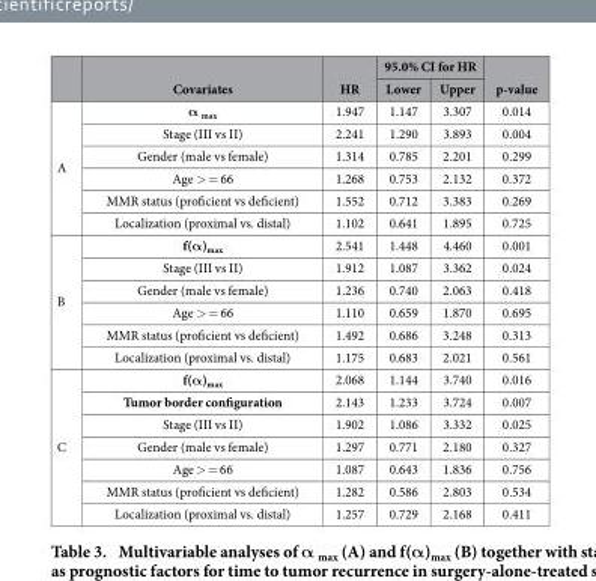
<table><thead><tr><td rowspan="2"></td><td rowspan="2">Covariates</td><td rowspan="2">HR</td><td colspan="2">95.0% CI for HR</td><td rowspan="2">p-value</td></tr><tr><td>Lower</td><td>Upper</td></tr></thead><tbody><tr><td rowspan="6">A</td><td>α <sub>max</sub></td><td>1.947</td><td>1.147</td><td>3.307</td><td>0.014</td></tr><tr><td>Stage (III vs II)</td><td>2.241</td><td>1.290</td><td>3.893</td><td>0.004</td></tr><tr><td>Gender (male vs female)</td><td>1.314</td><td>0.785</td><td>2.201</td><td>0.299</td></tr><tr><td>Age &gt; = 66</td><td>1.268</td><td>0.753</td><td>2.132</td><td>0.372</td></tr><tr><td>MMR status (proficient vs deficient)</td><td>1.552</td><td>0.712</td><td>3.383</td><td>0.269</td></tr><tr><td>Localization (proximal vs. distal)</td><td>1.102</td><td>0.641</td><td>1.895</td><td>0.725</td></tr><tr><td rowspan="6">B</td><td>f(α)<sub>max</sub></td><td>2.541</td><td>1.448</td><td>4.460</td><td>0.001</td></tr><tr><td>Stage (III vs II)</td><td>1.912</td><td>1.087</td><td>3.362</td><td>0.024</td></tr><tr><td>Gender (male vs female)</td><td>1.236</td><td>0.740</td><td>2.063</td><td>0.418</td></tr><tr><td>Age &gt; = 66</td><td>1.110</td><td>0.659</td><td>1.870</td><td>0.695</td></tr><tr><td>MMR status (proficient vs deficient)</td><td>1.492</td><td>0.686</td><td>3.248</td><td>0.313</td></tr><tr><td>Localization (proximal vs. distal)</td><td>1.175</td><td>0.683</td><td>2.021</td><td>0.561</td></tr><tr><td rowspan="7">C</td><td>f(α)<sub>max</sub></td><td>2.068</td><td>1.144</td><td>3.740</td><td>0.016</td></tr><tr><td>Tumor border configuration</td><td>2.143</td><td>1.233</td><td>3.724</td><td>0.007</td></tr><tr><td>Stage (III vs II)</td><td>1.902</td><td>1.086</td><td>3.332</td><td>0.025</td></tr><tr><td>Gender (male vs female)</td><td>1.297</td><td>0.771</td><td>2.180</td><td>0.327</td></tr><tr><td>Age &gt; = 66</td><td>1.087</td><td>0.643</td><td>1.836</td><td>0.756</td></tr><tr><td>MMR status (proficient vs deficient)</td><td>1.282</td><td>0.586</td><td>2.803</td><td>0.534</td></tr><tr><td>Localization (proximal vs. distal)</td><td>1.257</td><td>0.729</td><td>2.168</td><td>0.411</td></tr></tbody></table>